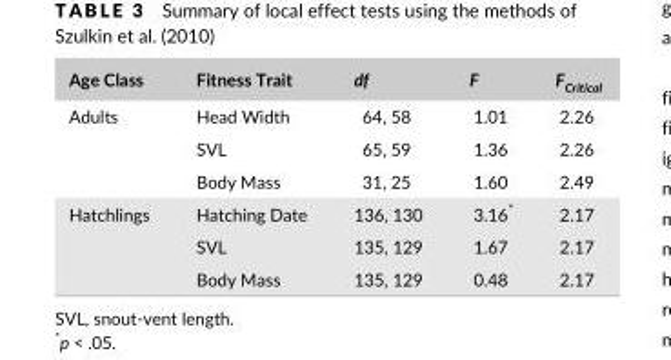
<table><thead><tr><td>Age Class</td><td>Fitness Trait</td><td>df</td><td>F</td><td>F<sub>Critical</sub></td></tr></thead><tbody><tr><td rowspan="3">Adults</td><td>Head Width</td><td>64, 58</td><td>1.01</td><td>2.26</td></tr><tr><td>SVL</td><td>65, 59</td><td>1.36</td><td>2.26</td></tr><tr><td>Body Mass</td><td>31, 25</td><td>1.60</td><td>2.49</td></tr><tr><td rowspan="3">Hatchlings</td><td>Hatching Date</td><td>136, 130</td><td>3.16*</td><td>2.17</td></tr><tr><td>SVL</td><td>135, 129</td><td>1.67</td><td>2.17</td></tr><tr><td>Body Mass</td><td>135, 129</td><td>0.48</td><td>2.17</td></tr></tbody></table>